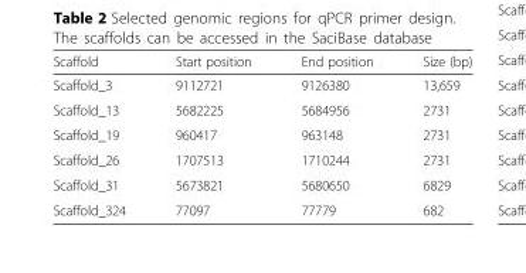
<table><thead><tr><td>Scaffold</td><td>Start position</td><td>End position</td><td>Size (bp)</td></tr></thead><tbody><tr><td>Scaffold_3</td><td>9112721</td><td>9126380</td><td>13,659</td></tr><tr><td>Scaffold_13</td><td>5682225</td><td>5684956</td><td>2731</td></tr><tr><td>Scaffold_19</td><td>960417</td><td>963148</td><td>2731</td></tr><tr><td>Scaffold_26</td><td>1707513</td><td>1710244</td><td>2731</td></tr><tr><td>Scaffold_31</td><td>5673821</td><td>5680650</td><td>6829</td></tr><tr><td>Scaffold_324</td><td>77097</td><td>77779</td><td>682</td></tr></tbody></table>